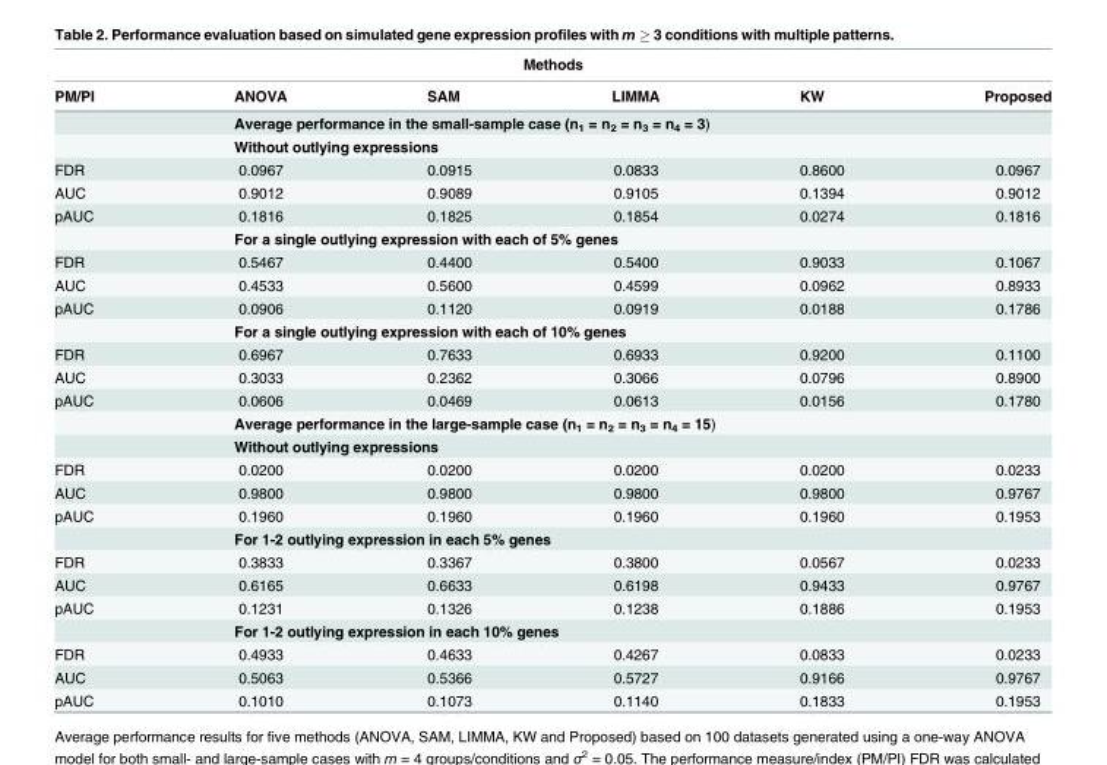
<table><thead><tr><td colspan="6">Methods</td></tr><tr><td>PM/PI</td><td>ANOVA</td><td>SAM</td><td>LIMMA</td><td>KW</td><td>Proposed</td></tr></thead><tbody><tr><td></td><td colspan="5">Average performance in the small-sample case (n<sub>1</sub> = n<sub>2</sub> = n<sub>3</sub> = n<sub>4</sub> = 3)</td></tr><tr><td></td><td colspan="5">Without outlying expressions</td></tr><tr><td>FDR</td><td>0.0967</td><td>0.0915</td><td>0.0833</td><td>0.8600</td><td>0.0967</td></tr><tr><td>AUC</td><td>0.9012</td><td>0.9089</td><td>0.9105</td><td>0.1394</td><td>0.9012</td></tr><tr><td rowspan="2">pAUC</td><td>0.1816</td><td>0.1825</td><td>0.1854</td><td>0.0274</td><td>0.1816</td></tr><tr><td colspan="5">For a single outlying expression with each of 5% genes</td></tr><tr><td>FDR</td><td>0.5467</td><td>0.4400</td><td>0.5400</td><td>0.9033</td><td>0.1067</td></tr><tr><td>AUC</td><td>0.4533</td><td>0.5600</td><td>0.4599</td><td>0.0962</td><td>0.8933</td></tr><tr><td rowspan="2">pAUC</td><td>0.0906</td><td>0.1120</td><td>0.0919</td><td>0.0188</td><td>0.1786</td></tr><tr><td colspan="5">For a single outlying expression with each of 10% genes</td></tr><tr><td>FDR</td><td>0.6967</td><td>0.7633</td><td>0.6933</td><td>0.9200</td><td>0.1100</td></tr><tr><td>AUC</td><td>0.3033</td><td>0.2362</td><td>0.3066</td><td>0.0796</td><td>0.8900</td></tr><tr><td rowspan="3">pAUC</td><td>0.0606</td><td>0.0469</td><td>0.0613</td><td>0.0156</td><td>0.1780</td></tr><tr><td colspan="5">Average performance in the large-sample case (n<sub>1</sub> = n<sub>2</sub> = n<sub>3</sub> = n<sub>4</sub> = 15)</td></tr><tr><td colspan="5">Without outlying expressions</td></tr><tr><td>FDR</td><td>0.0200</td><td>0.0200</td><td>0.0200</td><td>0.0200</td><td>0.0233</td></tr><tr><td>AUC</td><td>0.9800</td><td>0.9800</td><td>0.9800</td><td>0.9800</td><td>0.9767</td></tr><tr><td rowspan="2">pAUC</td><td>0.1960</td><td>0.1960</td><td>0.1960</td><td>0.1960</td><td>0.1953</td></tr><tr><td colspan="5">For 1-2 outlying expression in each 5% genes</td></tr><tr><td>FDR</td><td>0.3833</td><td>0.3367</td><td>0.3800</td><td>0.0567</td><td>0.0233</td></tr><tr><td>AUC</td><td>0.6165</td><td>0.6633</td><td>0.6198</td><td>0.9433</td><td>0.9767</td></tr><tr><td rowspan="2">pAUC</td><td>0.1231</td><td>0.1326</td><td>0.1238</td><td>0.1886</td><td>0.1953</td></tr><tr><td colspan="5">For 1-2 outlying expression in each 10% genes</td></tr><tr><td>FDR</td><td>0.4933</td><td>0.4633</td><td>0.4267</td><td>0.0833</td><td>0.0233</td></tr><tr><td>AUC</td><td>0.5063</td><td>0.5366</td><td>0.5727</td><td>0.9166</td><td>0.9767</td></tr><tr><td>pAUC</td><td>0.1010</td><td>0.1073</td><td>0.1140</td><td>0.1833</td><td>0.1953</td></tr></tbody></table>